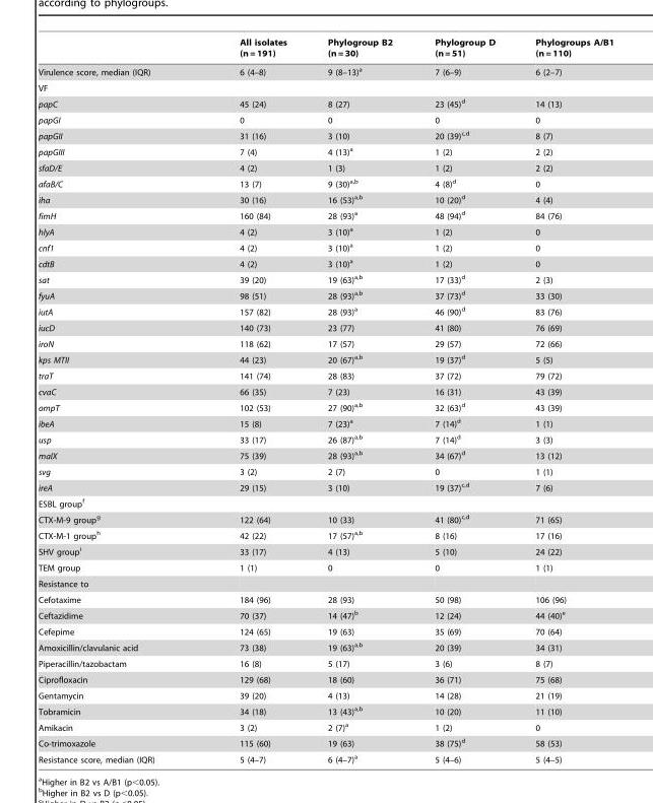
<table><thead><tr><td></td><td>All isolates (n = 191)</td><td>Phylogroup B2 (n = 30)</td><td>Phylogroup D (n = 51)</td><td>Phylogroups A/B1 (n = 110)</td></tr></thead><tbody><tr><td>Virulence score, median (IQR)</td><td>6 (4–8)</td><td>9 (8–13)<sup>a</sup></td><td>7 (6–9)</td><td>6 (2–7)</td></tr><tr><td colspan="5">VF</td></tr><tr><td>papC</td><td>45 (24)</td><td>8 (27)</td><td>23 (45)<sup>d</sup></td><td>14 (13)</td></tr><tr><td>papGI</td><td>0</td><td>0</td><td>0</td><td>0</td></tr><tr><td>papGII</td><td>31 (16)</td><td>3 (10)</td><td>20 (39)c,d</td><td>8 (7)</td></tr><tr><td>papGIII</td><td>7 (4)</td><td>4 (13)<sup>a</sup></td><td>1 (2)</td><td>2 (2)</td></tr><tr><td>sfaD/E</td><td>4 (2)</td><td>1 (3)</td><td>1 (2)</td><td>2 (2)</td></tr><tr><td>afaB/C</td><td>13 (7)</td><td>9 (30)a,b</td><td>4 (8)<sup>d</sup></td><td>0</td></tr><tr><td>iha</td><td>30 (16)</td><td>16 (53)a,b</td><td>10 (20)<sup>d</sup></td><td>4 (4)</td></tr><tr><td>fimH</td><td>160 (84)</td><td>28 (93)<sup>a</sup></td><td>48 (94)<sup>d</sup></td><td>84 (76)</td></tr><tr><td>hlyA</td><td>4 (2)</td><td>3 (10)<sup>a</sup></td><td>1 (2)</td><td>0</td></tr><tr><td>cnf1</td><td>4 (2)</td><td>3 (10)<sup>a</sup></td><td>1 (2)</td><td>0</td></tr><tr><td>cdtB</td><td>4 (2)</td><td>3 (10)<sup>a</sup></td><td>1 (2)</td><td>0</td></tr><tr><td>sat</td><td>39 (20)</td><td>19 (63)a,b</td><td>17 (33)<sup>d</sup></td><td>2 (3)</td></tr><tr><td>fyuA</td><td>98 (51)</td><td>28 (93)a,b</td><td>37 (73)<sup>d</sup></td><td>33 (30)</td></tr><tr><td>iutA</td><td>157 (82)</td><td>28 (93)<sup>a</sup></td><td>46 (90)<sup>d</sup></td><td>83 (76)</td></tr><tr><td>iucD</td><td>140 (73)</td><td>23 (77)</td><td>41 (80)</td><td>76 (69)</td></tr><tr><td>iroN</td><td>118 (62)</td><td>17 (57)</td><td>29 (57)</td><td>72 (66)</td></tr><tr><td>kps MTII</td><td>44 (23)</td><td>20 (67)a,b</td><td>19 (37)<sup>d</sup></td><td>5 (5)</td></tr><tr><td>traT</td><td>141 (74)</td><td>28 (83)</td><td>37 (72)</td><td>79 (72)</td></tr><tr><td>cvaC</td><td>66 (35)</td><td>7 (23)</td><td>16 (31)</td><td>43 (39)</td></tr><tr><td>ompT</td><td>102 (53)</td><td>27 (90)a,b</td><td>32 (63)<sup>d</sup></td><td>43 (39)</td></tr><tr><td>ibeA</td><td>15 (8)</td><td>7 (23)<sup>a</sup></td><td>7 (14)<sup>d</sup></td><td>1 (1)</td></tr><tr><td>usp</td><td>33 (17)</td><td>26 (87)a,b</td><td>7 (14)<sup>d</sup></td><td>3 (3)</td></tr><tr><td>maIX</td><td>75 (39)</td><td>28 (93)a,b</td><td>34 (67)<sup>d</sup></td><td>13 (12)</td></tr><tr><td>svg</td><td>3 (2)</td><td>2 (7)</td><td>0</td><td>1 (1)</td></tr><tr><td>ireA</td><td>29 (15)</td><td>3 (10)</td><td>19 (37)c,d</td><td>7 (6)</td></tr><tr><td colspan="5">ESBL group<sup>f</sup></td></tr><tr><td>CTX-M-9 group<sup>g</sup></td><td>122 (64)</td><td>10 (33)</td><td>41 (80)c,d</td><td>71 (65)</td></tr><tr><td>CTX-M-1 group<sup>h</sup></td><td>42 (22)</td><td>17 (57)a,b</td><td>8 (16)</td><td>17 (16)</td></tr><tr><td>SHV group<sup>i</sup></td><td>33 (17)</td><td>4 (13)</td><td>5 (10)</td><td>24 (22)</td></tr><tr><td>TEM group</td><td>1 (1)</td><td>0</td><td>0</td><td>1 (1)</td></tr><tr><td colspan="5">Resistance to</td></tr><tr><td>Cefotaxime</td><td>184 (96)</td><td>28 (93)</td><td>50 (98)</td><td>106 (96)</td></tr><tr><td>Ceftazidime</td><td>70 (37)</td><td>14 (47)<sup>b</sup></td><td>12 (24)</td><td>44 (40)<sup>e</sup></td></tr><tr><td>Cefepime</td><td>124 (65)</td><td>19 (63)</td><td>35 (69)</td><td>70 (64)</td></tr><tr><td>Amoxicillin/clavulanic acid</td><td>73 (38)</td><td>19 (63)a,b</td><td>20 (39)</td><td>34 (31)</td></tr><tr><td>Piperacillin/tazobactam</td><td>16 (8)</td><td>5 (17)</td><td>3 (6)</td><td>8 (7)</td></tr><tr><td>Ciprofloxacin</td><td>129 (68)</td><td>18 (60)</td><td>36 (71)</td><td>75 (68)</td></tr><tr><td>Gentamycin</td><td>39 (20)</td><td>4 (13)</td><td>14 (28)</td><td>21 (19)</td></tr><tr><td>Tobramicin</td><td>34 (18)</td><td>13 (43)a,b</td><td>10 (20)</td><td>11 (10)</td></tr><tr><td>Amikacin</td><td>3 (2)</td><td>2 (7)<sup>a</sup></td><td>1 (2)</td><td>0</td></tr><tr><td>Co-trimoxazole</td><td>115 (60)</td><td>19 (63)</td><td>38 (75)<sup>d</sup></td><td>58 (53)</td></tr><tr><td>Resistance score, median (IQR)</td><td>5 (4–7)</td><td>6 (4–7)<sup>a</sup></td><td>5 (4–6)</td><td>5 (4–5)</td></tr></tbody></table>